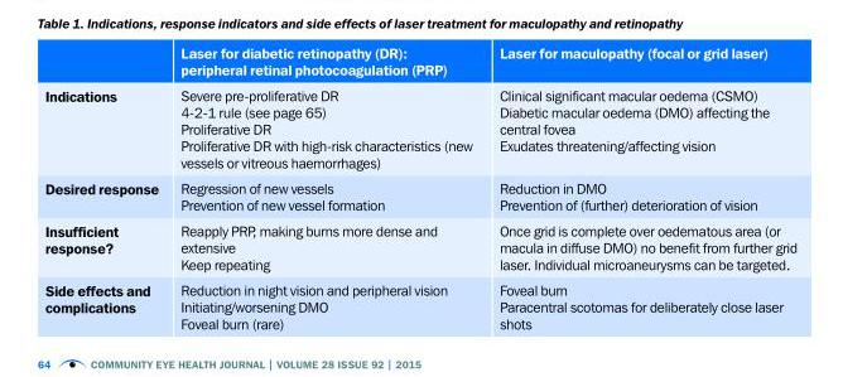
<table><thead><tr><td></td><td>Laser for diabetic retinopathy (DR): peripheral retinal photocoagulation (PRP)</td><td>Laser for maculopathy (focal or grid laser)</td></tr></thead><tbody><tr><td>Indications</td><td>Severe pre-proliferative DR 4-2-1 rule (see page 65) Proliferative DR Proliferative DR with high-risk characteristics (new vessels or vitreous haemorrhages)</td><td>Clinical significant macular oedema (CSMO) Diabetic macular oedema (DMO) affecting the central fovea Exudates threatening/affecting vision</td></tr><tr><td>Desired response</td><td>Regression of new vessels Prevention of new vessel formation</td><td>Reduction in DMO Prevention of (further) deterioration of vision</td></tr><tr><td>Insufficient response?</td><td>Reapply PRP, making burns more dense and extensive Keep repeating</td><td>Once grid is complete over oedematous area (or macula in diffuse DMO) no benefit from further grid laser. Individual microaneurysms can be targeted.</td></tr><tr><td>Side effects and complications</td><td>Reduction in night vision and peripheral vision Initiating/worsening DMO Foveal burn (rare)</td><td>Foveal burn Paracentral scotomas for deliberately close laser shots</td></tr></tbody></table>